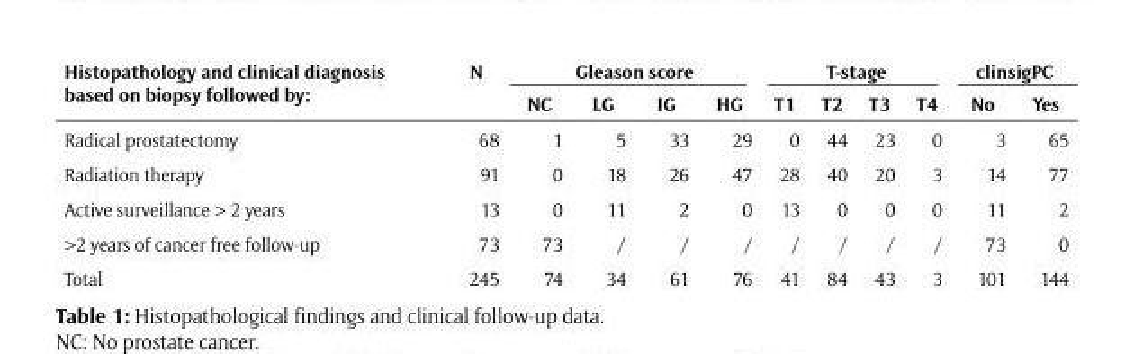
<table><thead><tr><td rowspan="2">Histopathology and clinical diagnosis based on biopsy followed by:</td><td rowspan="2">N</td><td colspan="4">Gleason score</td><td colspan="4">T-stage</td><td colspan="2">clinsigPC</td></tr><tr><td>NC</td><td>LG</td><td>IG</td><td>HG</td><td>T1</td><td>T2</td><td>T3</td><td>T4</td><td>No</td><td>Yes</td></tr></thead><tbody><tr><td>Radical prostatectomy</td><td>68</td><td>1</td><td>5</td><td>33</td><td>29</td><td>0</td><td>44</td><td>23</td><td>0</td><td>3</td><td>65</td></tr><tr><td>Radiation therapy</td><td>91</td><td>0</td><td>18</td><td>26</td><td>47</td><td>28</td><td>40</td><td>20</td><td>3</td><td>14</td><td>77</td></tr><tr><td>Active surveillance &gt; 2 years</td><td>13</td><td>0</td><td>11</td><td>2</td><td>0</td><td>13</td><td>0</td><td>0</td><td>0</td><td>11</td><td>2</td></tr><tr><td>&gt;2 years of cancer free follow-up</td><td>73</td><td>73</td><td>/</td><td>/</td><td>/</td><td>/</td><td>/</td><td>/</td><td>/</td><td>73</td><td>0</td></tr><tr><td>Total</td><td>245</td><td>74</td><td>34</td><td>61</td><td>76</td><td>41</td><td>84</td><td>43</td><td>3</td><td>101</td><td>144</td></tr></tbody></table>